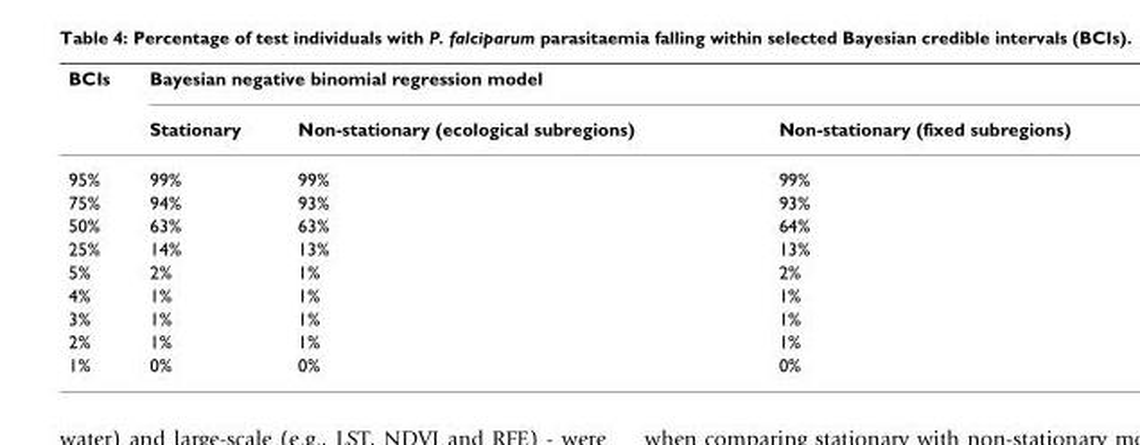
<table><thead><tr><td rowspan="2">BCIs</td><td colspan="3">Bayesian negative binomial regression model</td></tr><tr><td>Stationary</td><td>Non-stationary (ecological subregions)</td><td>Non-stationary (fixed subregions)</td></tr></thead><tbody><tr><td>95%</td><td>99%</td><td>99%</td><td>99%</td></tr><tr><td>75%</td><td>94%</td><td>93%</td><td>93%</td></tr><tr><td>50%</td><td>63%</td><td>63%</td><td>64%</td></tr><tr><td>25%</td><td>14%</td><td>13%</td><td>13%</td></tr><tr><td>5%</td><td>2%</td><td>1%</td><td>2%</td></tr><tr><td>4%</td><td>1%</td><td>1%</td><td>1%</td></tr><tr><td>3%</td><td>1%</td><td>1%</td><td>1%</td></tr><tr><td>2%</td><td>1%</td><td>1%</td><td>1%</td></tr><tr><td>1%</td><td>0%</td><td>0%</td><td>0%</td></tr></tbody></table>